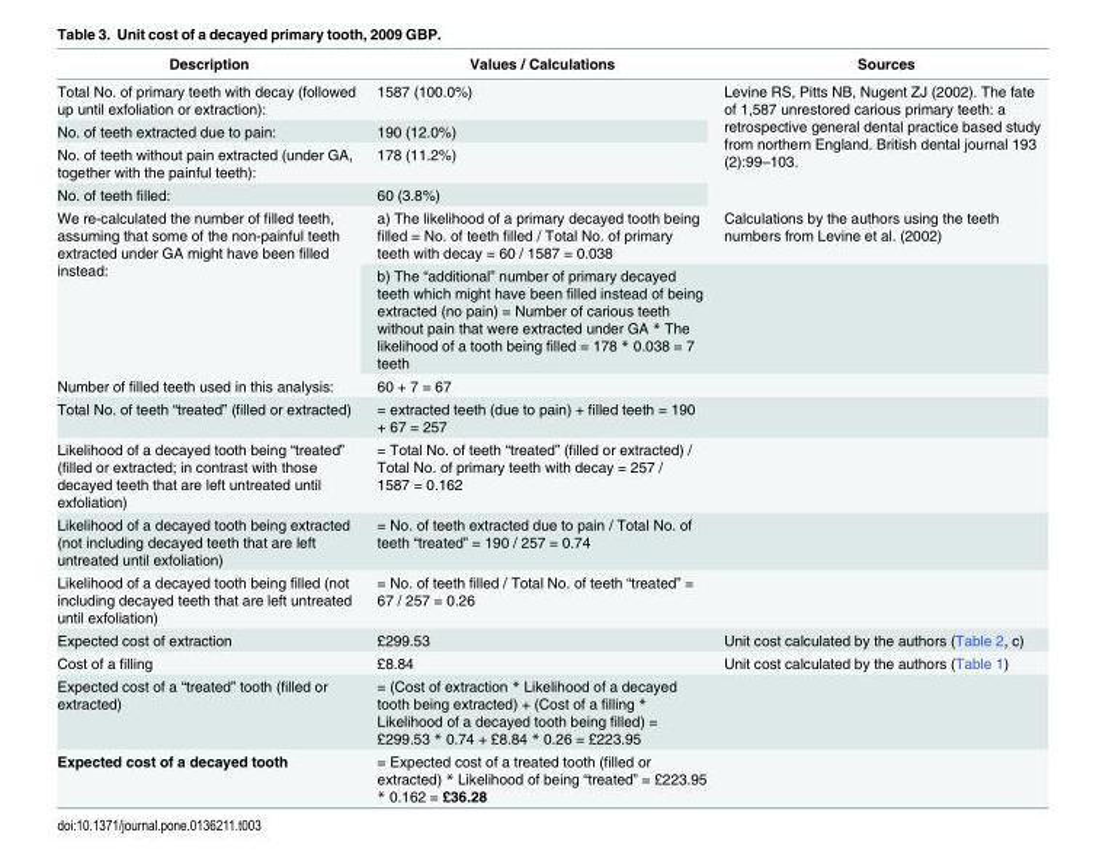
<table><thead><tr><td>Description</td><td>Values / Calculations</td><td>Sources</td></tr></thead><tbody><tr><td>Total No. of primary teeth with decay (followed up until exfoliation or extraction):</td><td>1587 (100.0%)</td><td rowspan="4">Levine RS, Pitts NB, Nugent ZJ (2002). The fate of 1,587 unrestored carious primary teeth: a retrospective general dental practice based study from northern England. British dental journal 193 (2):99–103.</td></tr><tr><td>No. of teeth extracted due to pain:</td><td>190 (12.0%)</td></tr><tr><td>No. of teeth without pain extracted (under GA, together with the painful teeth):</td><td>178 (11.2%)</td></tr><tr><td>No. of teeth filled:</td><td>60 (3.8%)</td></tr><tr><td rowspan="2">We re-calculated the number of filled teeth, assuming that some of the non-painful teeth extracted under GA might have been filled instead:</td><td>a) The likelihood of a primary decayed tooth being filled = No. of teeth filled / Total No. of primary teeth with decay = 60 / 1587 = 0.038</td><td>Calculations by the authors using the teeth numbers from Levine et al. (2002)</td></tr><tr><td>b) The “additional” number of primary decayed teeth which might have been filled instead of being extracted (no pain) = Number of carious teeth without pain that were extracted under GA * The likelihood of a tooth being filled = 178 * 0.038 = 7 teeth</td><td></td></tr><tr><td>Number of filled teeth used in this analysis:</td><td>60 + 7 = 67</td><td></td></tr><tr><td>Total No. of teeth “treated” (filled or extracted)</td><td>= extracted teeth (due to pain) + filled teeth = 190 + 67 = 257</td><td></td></tr><tr><td>Likelihood of a decayed tooth being “treated” (filled or extracted; in contrast with those decayed teeth that are left untreated until exfoliation)</td><td>= Total No. of teeth “treated” (filled or extracted) / Total No. of primary teeth with decay = 257 / 1587 = 0.162</td><td></td></tr><tr><td>Likelihood of a decayed tooth being extracted (not including decayed teeth that are left untreated until exfoliation)</td><td>= No. of teeth extracted due to pain / Total No. of teeth “treated” = 190 / 257 = 0.74</td><td></td></tr><tr><td>Likelihood of a decayed tooth being filled (not including decayed teeth that are left untreated until exfoliation)</td><td>= No. of teeth filled / Total No. of teeth “treated” = 67 / 257 = 0.26</td><td></td></tr><tr><td>Expected cost of extraction</td><td>£299.53</td><td>Unit cost calculated by the authors (Table 2, c)</td></tr><tr><td>Cost of a filling</td><td>£8.84</td><td>Unit cost calculated by the authors (Table 1)</td></tr><tr><td>Expected cost of a “treated” tooth (filled or extracted)</td><td>= (Cost of extraction * Likelihood of a decayed tooth being extracted) + (Cost of a filling * Likelihood of a decayed tooth being filled) = £299.53 * 0.74 + £8.84 * 0.26 = £223.95</td><td></td></tr><tr><td>Expected cost of a decayed tooth</td><td>= Expected cost of a treated tooth (filled or extracted) * Likelihood of being “treated” = £223.95 * 0.162 = £36.28</td><td></td></tr></tbody></table>